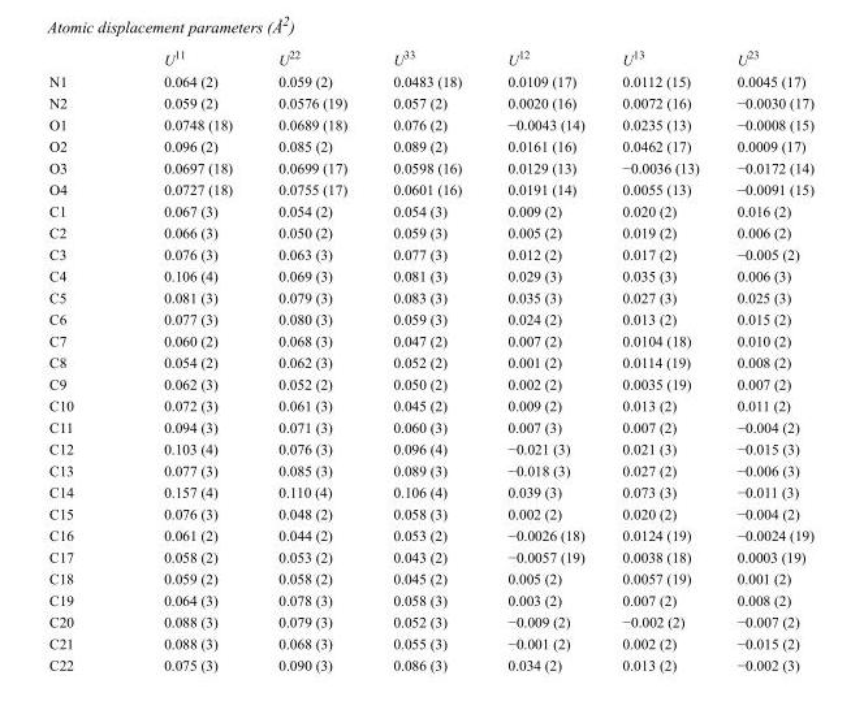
<table><thead><tr><td></td><td>U<sup>11</sup></td><td>U<sup>22</sup></td><td>U<sup>33</sup></td><td>U<sup>12</sup></td><td>U<sup>13</sup></td><td>U<sup>23</sup></td></tr></thead><tbody><tr><td>N1</td><td>0.064 (2)</td><td>0.059 (2)</td><td>0.0483 (18)</td><td>0.0109 (17)</td><td>0.0112 (15)</td><td>0.0045 (17)</td></tr><tr><td>N2</td><td>0.059 (2)</td><td>0.0576 (19)</td><td>0.057 (2)</td><td>0.0020 (16)</td><td>0.0072 (16)</td><td>−0.0030 (17)</td></tr><tr><td>O1</td><td>0.0748 (18)</td><td>0.0689 (18)</td><td>0.076 (2)</td><td>−0.0043 (14)</td><td>0.0235 (13)</td><td>−0.0008 (15)</td></tr><tr><td>O2</td><td>0.096 (2)</td><td>0.085 (2)</td><td>0.089 (2)</td><td>0.0161 (16)</td><td>0.0462 (17)</td><td>0.0009 (17)</td></tr><tr><td>O3</td><td>0.0697 (18)</td><td>0.0699 (17)</td><td>0.0598 (16)</td><td>0.0129 (13)</td><td>−0.0036 (13)</td><td>−0.0172 (14)</td></tr><tr><td>O4</td><td>0.0727 (18)</td><td>0.0755 (17)</td><td>0.0601 (16)</td><td>0.0191 (14)</td><td>0.0055 (13)</td><td>−0.0091 (15)</td></tr><tr><td>C1</td><td>0.067 (3)</td><td>0.054 (2)</td><td>0.054 (3)</td><td>0.009 (2)</td><td>0.020 (2)</td><td>0.016 (2)</td></tr><tr><td>C2</td><td>0.066 (3)</td><td>0.050 (2)</td><td>0.059 (3)</td><td>0.005 (2)</td><td>0.019 (2)</td><td>0.006 (2)</td></tr><tr><td>C3</td><td>0.076 (3)</td><td>0.063 (3)</td><td>0.077 (3)</td><td>0.012 (2)</td><td>0.017 (2)</td><td>−0.005 (2)</td></tr><tr><td>C4</td><td>0.106 (4)</td><td>0.069 (3)</td><td>0.081 (3)</td><td>0.029 (3)</td><td>0.035 (3)</td><td>0.006 (3)</td></tr><tr><td>C5</td><td>0.081 (3)</td><td>0.079 (3)</td><td>0.083 (3)</td><td>0.035 (3)</td><td>0.027 (3)</td><td>0.025 (3)</td></tr><tr><td>C6</td><td>0.077 (3)</td><td>0.080 (3)</td><td>0.059 (3)</td><td>0.024 (2)</td><td>0.013 (2)</td><td>0.015 (2)</td></tr><tr><td>C7</td><td>0.060 (2)</td><td>0.068 (3)</td><td>0.047 (2)</td><td>0.007 (2)</td><td>0.0104 (18)</td><td>0.010 (2)</td></tr><tr><td>C8</td><td>0.054 (2)</td><td>0.062 (3)</td><td>0.052 (2)</td><td>0.001 (2)</td><td>0.0114 (19)</td><td>0.008 (2)</td></tr><tr><td>C9</td><td>0.062 (3)</td><td>0.052 (2)</td><td>0.050 (2)</td><td>0.002 (2)</td><td>0.0035 (19)</td><td>0.007 (2)</td></tr><tr><td>C10</td><td>0.072 (3)</td><td>0.061 (3)</td><td>0.045 (2)</td><td>0.009 (2)</td><td>0.013 (2)</td><td>0.011 (2)</td></tr><tr><td>C11</td><td>0.094 (3)</td><td>0.071 (3)</td><td>0.060 (3)</td><td>0.007 (3)</td><td>0.007 (2)</td><td>−0.004 (2)</td></tr><tr><td>C12</td><td>0.103 (4)</td><td>0.076 (3)</td><td>0.096 (4)</td><td>−0.021 (3)</td><td>0.021 (3)</td><td>−0.015 (3)</td></tr><tr><td>C13</td><td>0.077 (3)</td><td>0.085 (3)</td><td>0.089 (3)</td><td>−0.018 (3)</td><td>0.027 (2)</td><td>−0.006 (3)</td></tr><tr><td>C14</td><td>0.157 (4)</td><td>0.110 (4)</td><td>0.106 (4)</td><td>0.039 (3)</td><td>0.073 (3)</td><td>−0.011 (3)</td></tr><tr><td>C15</td><td>0.076 (3)</td><td>0.048 (2)</td><td>0.058 (3)</td><td>0.002 (2)</td><td>0.020 (2)</td><td>−0.004 (2)</td></tr><tr><td>C16</td><td>0.061 (2)</td><td>0.044 (2)</td><td>0.053 (2)</td><td>−0.0026 (18)</td><td>0.0124 (19)</td><td>−0.0024 (19)</td></tr><tr><td>C17</td><td>0.058 (2)</td><td>0.053 (2)</td><td>0.043 (2)</td><td>−0.0057 (19)</td><td>0.0038 (18)</td><td>0.0003 (19)</td></tr><tr><td>C18</td><td>0.059 (2)</td><td>0.058 (2)</td><td>0.045 (2)</td><td>0.005 (2)</td><td>0.0057 (19)</td><td>0.001 (2)</td></tr><tr><td>C19</td><td>0.064 (3)</td><td>0.078 (3)</td><td>0.058 (3)</td><td>0.003 (2)</td><td>0.007 (2)</td><td>0.008 (2)</td></tr><tr><td>C20</td><td>0.088 (3)</td><td>0.079 (3)</td><td>0.052 (3)</td><td>−0.009 (2)</td><td>−0.002 (2)</td><td>−0.007 (2)</td></tr><tr><td>C21</td><td>0.088 (3)</td><td>0.068 (3)</td><td>0.055 (3)</td><td>−0.001 (2)</td><td>0.002 (2)</td><td>−0.015 (2)</td></tr><tr><td>C22</td><td>0.075 (3)</td><td>0.090 (3)</td><td>0.086 (3)</td><td>0.034 (2)</td><td>0.013 (2)</td><td>−0.002 (3)</td></tr></tbody></table>